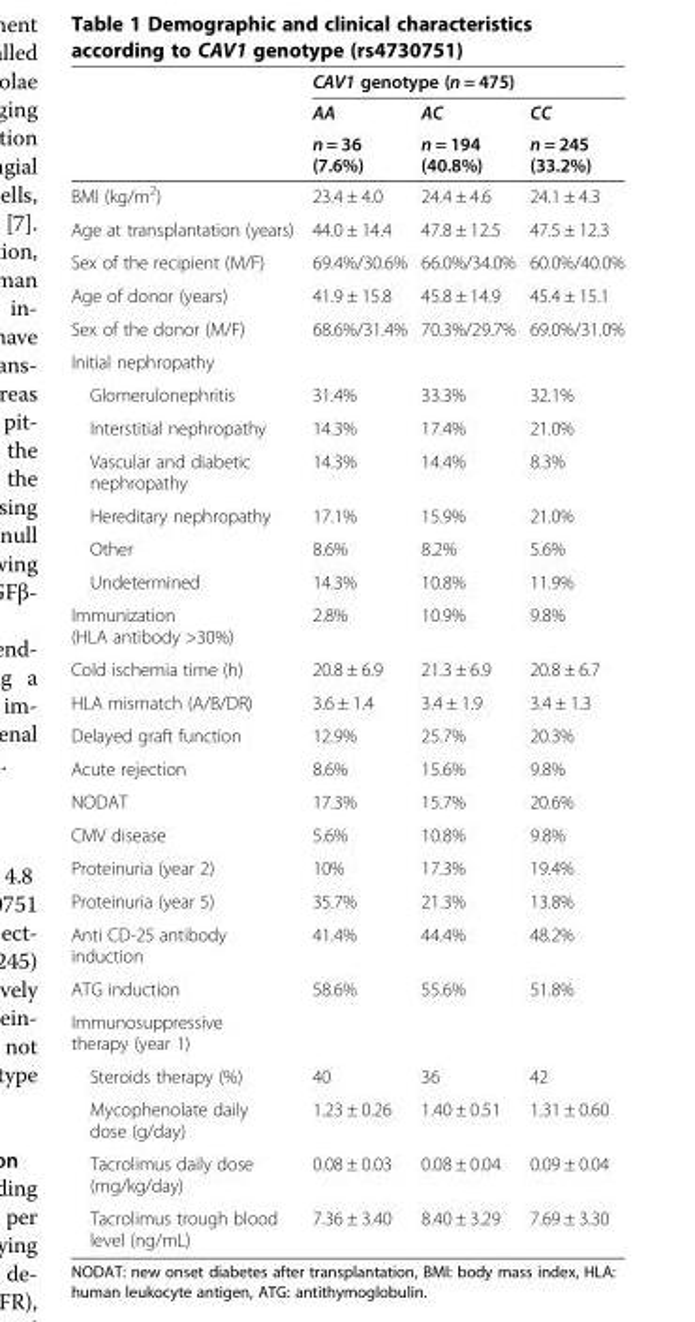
<table><thead><tr><td rowspan="3"></td><td colspan="3">CAV1 genotype (n = 475)</td></tr><tr><td rowspan="2">AA n = 36 (7.6%)</td><td rowspan="2">AC n = 194 (40.8%)</td><td rowspan="2">CC n = 245 (33.2%)</td></tr><tr></tr></thead><tbody><tr><td>BMI (kg/m<sup>2</sup>)</td><td>23.4 ± 4.0</td><td>24.4 ± 4.6</td><td>24.1 ± 4.3</td></tr><tr><td>Age at transplantation (years)</td><td>44.0 ± 14.4</td><td>47.8 ± 12.5</td><td>47.5 ± 12.3</td></tr><tr><td>Sex of the recipient (M/F)</td><td>69.4%/30.6%</td><td>66.0%/34.0%</td><td>60.0%/40.0%</td></tr><tr><td>Age of donor (years)</td><td>41.9 ± 15.8</td><td>45.8 ± 14.9</td><td>45.4 ± 15.1</td></tr><tr><td>Sex of the donor (M/F)</td><td>68.6%/31.4%</td><td>70.3%/29.7%</td><td>69.0%/31.0%</td></tr><tr><td colspan="4">Initial nephropathy</td></tr><tr><td>Glomerulonephritis</td><td>31.4%</td><td>33.3%</td><td>32.1%</td></tr><tr><td>Interstitial nephropathy</td><td>14.3%</td><td>17.4%</td><td>21.0%</td></tr><tr><td>Vascular and diabetic nephropathy</td><td>14.3%</td><td>14.4%</td><td>8.3%</td></tr><tr><td>Hereditary nephropathy</td><td>17.1%</td><td>15.9%</td><td>21.0%</td></tr><tr><td>Other</td><td>8.6%</td><td>8.2%</td><td>5.6%</td></tr><tr><td>Undetermined</td><td>14.3%</td><td>10.8%</td><td>11.9%</td></tr><tr><td>Immunization (HLA antibody &gt;30%)</td><td>2.8%</td><td>10.9%</td><td>9.8%</td></tr><tr><td>Cold ischemia time (h)</td><td>20.8 ± 6.9</td><td>21.3 ± 6.9</td><td>20.8 ± 6.7</td></tr><tr><td>HLA mismatch (A/B/DR)</td><td>3.6 ± 1.4</td><td>3.4 ± 1.9</td><td>3.4 ± 1.3</td></tr><tr><td>Delayed graft function</td><td>12.9%</td><td>25.7%</td><td>20.3%</td></tr><tr><td>Acute rejection</td><td>8.6%</td><td>15.6%</td><td>9.8%</td></tr><tr><td>NODAT</td><td>17.3%</td><td>15.7%</td><td>20.6%</td></tr><tr><td>CMV disease</td><td>5.6%</td><td>10.8%</td><td>9.8%</td></tr><tr><td>Proteinuria (year 2)</td><td>10%</td><td>17.3%</td><td>19.4%</td></tr><tr><td>Proteinuria (year 5)</td><td>35.7%</td><td>21.3%</td><td>13.8%</td></tr><tr><td>Anti CD-25 antibody induction</td><td>41.4%</td><td>44.4%</td><td>48.2%</td></tr><tr><td>ATG induction</td><td>58.6%</td><td>55.6%</td><td>51.8%</td></tr><tr><td colspan="4">Immunosuppressive therapy (year 1)</td></tr><tr><td>Steroids therapy (%)</td><td>40</td><td>36</td><td>42</td></tr><tr><td>Mycophenolate daily dose (g/day)</td><td>1.23 ± 0.26</td><td>1.40 ± 0.51</td><td>1.31 ± 0.60</td></tr><tr><td>Tacrolimus daily dose (mg/kg/day)</td><td>0.08 ± 0.03</td><td>0.08 ± 0.04</td><td>0.09 ± 0.04</td></tr><tr><td>Tacrolimus trough blood level (ng/mL)</td><td>7.36 ± 3.40</td><td>8.40 ± 3.29</td><td>7.69 ± 3.30</td></tr></tbody></table>